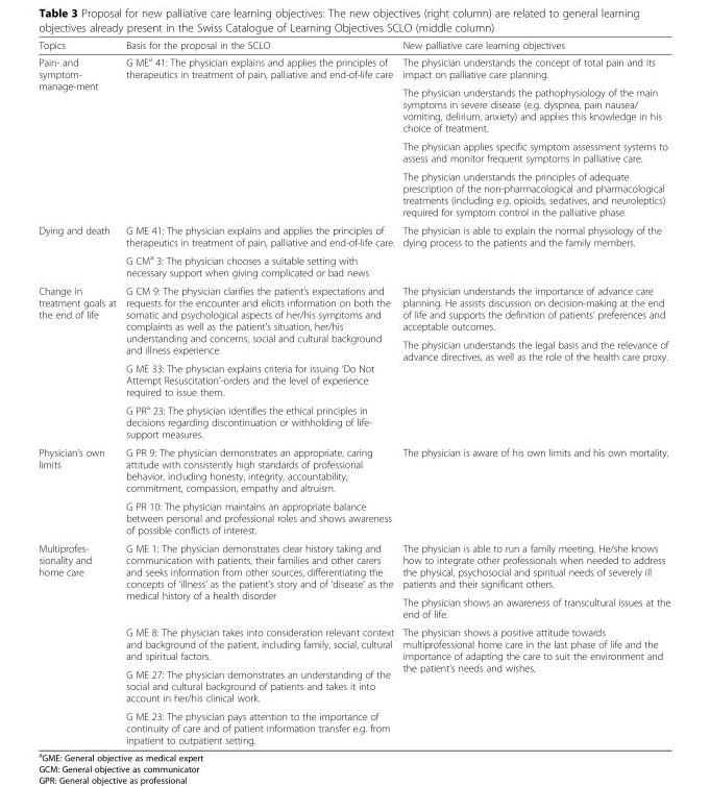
<table><thead><tr><td>Topics</td><td>Basis for the proposal in the SCLO</td><td>New palliative care learning objectives</td></tr></thead><tbody><tr><td rowspan="4">Pain- and symptom- manage-ment</td><td rowspan="4">G ME<sup>a</sup> 41: The physician explains and applies the principles of therapeutics in treatment of pain, palliative and end-of-life care</td><td>The physician understands the concept of total pain and its impact on palliative care planning.</td></tr><tr><td>The physician understands the pathophysiology of the main symptoms in severe disease (e.g. dyspnea, pain nausea/ vomiting, delirium, anxiety) and applies this knowledge in his choice of treatment.</td></tr><tr><td>The physician applies specific symptom assessment systems to assess and monitor frequent symptoms in palliative care.</td></tr><tr><td>The physician understands the principles of adequate prescription of the non-pharmacological and pharmacological treatments (including e.g. opioids, sedatives, and neuroleptics) required for symptom control in the palliative phase.</td></tr><tr><td rowspan="2">Dying and death</td><td>G ME 41: The physician explains and applies the principles of therapeutics in treatment of pain, palliative and end-of-life care.</td><td rowspan="2">The physician is able to explain the normal physiology of the dying process to the patients and the family members.</td></tr><tr><td>G CM<sup>a</sup> 3: The physician chooses a suitable setting with necessary support when giving complicated or bad news</td></tr><tr><td rowspan="4">Change in treatment goals at the end of life</td><td rowspan="2">G CM 9: The physician clarifies the patient’s expectations and requests for the encounter and elicits information on both the somatic and psychological aspects of her/his symptoms and complaints as well as the patient’s situation, her/his understanding and concerns, social and cultural background and illness experience</td><td>The physician understands the importance of advance care planning. He assists discussion on decision-making at the end of life and supports the definition of patients’ preferences and acceptable outcomes.</td></tr><tr><td rowspan="3">The physician understands the legal basis and the relevance of advance directives, as well as the role of the health care proxy.</td></tr><tr><td>G ME 33: The physician explains criteria for issuing ‘Do Not Attempt Resuscitation’-orders and the level of experience required to issue them.</td></tr><tr><td>G PR<sup>a</sup> 23: The physician identifies the ethical principles in decisions regarding discontinuation or withholding of life- support measures.</td></tr><tr><td rowspan="2">Physician’s own limits</td><td>G PR 9: The physician demonstrates an appropriate, caring attitude with consistently high standards of professional behavior, including honesty, integrity, accountability, commitment, compassion, empathy and altruism.</td><td rowspan="2">The physician is aware of his own limits and his own mortality.</td></tr><tr><td>G PR 10: The physician maintains an appropriate balance between personal and professional roles and shows awareness of possible conflicts of interest.</td></tr><tr><td rowspan="5">Multiprofes- sionality and home care</td><td rowspan="2">G ME 1: The physician demonstrates clear history taking and communication with patients, their families and other carers and seeks information from other sources, differentiating the concepts of ‘illness’ as the patient’s story and of ‘disease’ as the medical history of a health disorder</td><td>The physician is able to run a family meeting. He/she knows how to integrate other professionals when needed to address the physical, psychosocial and spiritual needs of severely ill patients and their significant others.</td></tr><tr><td>The physician shows an awareness of transcultural issues at the end of life.</td></tr><tr><td>G ME 8: The physician takes into consideration relevant context and background of the patient, including family, social, cultural and spiritual factors.</td><td rowspan="3">The physician shows a positive attitude towards multiprofessional home care in the last phase of life and the importance of adapting the care to suit the environment and the patient’s needs and wishes.</td></tr><tr><td>G ME 27: The physician demonstrates an understanding of the social and cultural background of patients and takes it into account in her/his clinical work.</td></tr><tr><td>G ME 23: The physician pays attention to the importance of continuity of care and of patient information transfer e.g. from inpatient to outpatient setting.</td></tr></tbody></table>